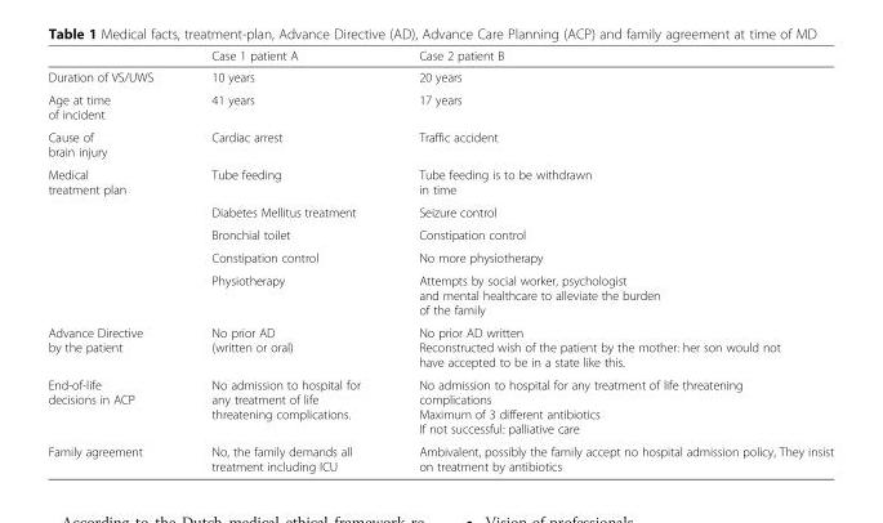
<table><thead><tr><td></td><td>Case 1 patient A</td><td>Case 2 patient B</td></tr></thead><tbody><tr><td>Duration of VS/UWS</td><td>10 years</td><td>20 years</td></tr><tr><td>Age at time of incident</td><td>41 years</td><td>17 years</td></tr><tr><td>Cause of brain injury</td><td>Cardiac arrest</td><td>Traffic accident</td></tr><tr><td rowspan="5">Medical treatment plan</td><td>Tube feeding</td><td>Tube feeding is to be withdrawn in time</td></tr><tr><td>Diabetes Mellitus treatment</td><td>Seizure control</td></tr><tr><td>Bronchial toilet</td><td>Constipation control</td></tr><tr><td>Constipation control</td><td>No more physiotherapy</td></tr><tr><td>Physiotherapy</td><td>Attempts by social worker, psychologist and mental healthcare to alleviate the burden of the family</td></tr><tr><td>Advance Directive by the patient</td><td>No prior AD (written or oral)</td><td>No prior AD written Reconstructed wish of the patient by the mother: her son would not have accepted to be in a state like this.</td></tr><tr><td>End-of-life decisions in ACP</td><td>No admission to hospital for any treatment of life threatening complications.</td><td>No admission to hospital for any treatment of life threatening complications Maximum of 3 different antibiotics If not successful: palliative care</td></tr><tr><td>Family agreement</td><td>No, the family demands all treatment including ICU</td><td>Ambivalent, possibly the family accept no hospital admission policy, They insist on treatment by antibiotics</td></tr></tbody></table>